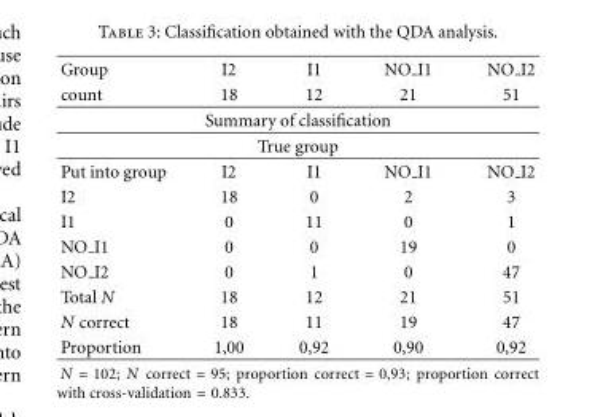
<table><tbody><tr><td>Group</td><td>I2</td><td>I1</td><td>NO I1</td><td>NO I2</td></tr><tr><td>count</td><td>18</td><td>12</td><td>21</td><td>51</td></tr><tr><td colspan="5">Summary of classification</td></tr><tr><td colspan="5">True group</td></tr><tr><td>Put into group</td><td>I2</td><td>I1</td><td>NO I1</td><td>NO I2</td></tr><tr><td>I2</td><td>18</td><td>0</td><td>2</td><td>3</td></tr><tr><td>I1</td><td>0</td><td>11</td><td>0</td><td>1</td></tr><tr><td>NO I1</td><td>0</td><td>0</td><td>19</td><td>0</td></tr><tr><td>NO I2</td><td>0</td><td>1</td><td>0</td><td>47</td></tr><tr><td>Total N</td><td>18</td><td>12</td><td>21</td><td>51</td></tr><tr><td>N correct</td><td>18</td><td>11</td><td>19</td><td>47</td></tr><tr><td>Proportion</td><td>1,00</td><td>0,92</td><td>0,90</td><td>0,92</td></tr></tbody></table>